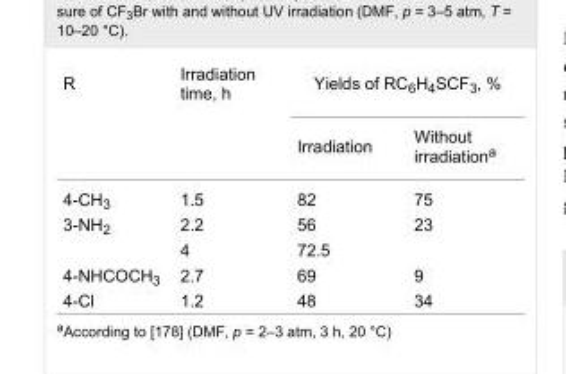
<table><tbody><tr><td>R</td><td>Irradiation time, h</td><td colspan="2">Yields of RC<sub>6</sub>H<sub>4</sub>SCF<sub>3</sub>, %</td></tr><tr><td colspan="2"></td><td>Irradiation</td><td>Without irradiation<sup>a</sup></td></tr><tr><td>4-CH<sub>3</sub></td><td>1.5</td><td>82</td><td>75</td></tr><tr><td rowspan="2">3-NH<sub>2</sub></td><td>2.2</td><td>56</td><td>23</td></tr><tr><td>4</td><td>72.5</td><td></td></tr><tr><td>4-NHCOCH<sub>3</sub></td><td>2.7</td><td>69</td><td>9</td></tr><tr><td>4-Cl</td><td>1.2</td><td>48</td><td>34</td></tr></tbody></table>